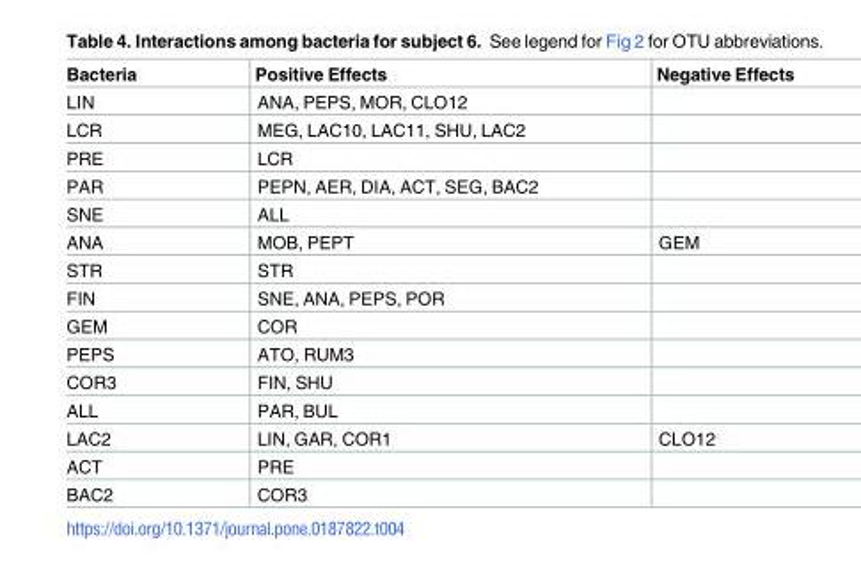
<table><thead><tr><td>Bacteria</td><td>Positive Effects</td><td>Negative Effects</td></tr></thead><tbody><tr><td>LIN</td><td>ANA, PEPS, MOR, CLO12</td><td></td></tr><tr><td>LCR</td><td>MEG, LAC10, LAC11, SHU, LAC2</td><td></td></tr><tr><td>PRE</td><td>LCR</td><td></td></tr><tr><td>PAR</td><td>PEPN, AER, DIA, ACT, SEG, BAC2</td><td></td></tr><tr><td>SNE</td><td>ALL</td><td></td></tr><tr><td>ANA</td><td>MOB, PEPT</td><td>GEM</td></tr><tr><td>STR</td><td>STR</td><td></td></tr><tr><td>FIN</td><td>SNE, ANA, PEPS, POR</td><td></td></tr><tr><td>GEM</td><td>COR</td><td></td></tr><tr><td>PEPS</td><td>ATO, RUM3</td><td></td></tr><tr><td>COR3</td><td>FIN, SHU</td><td></td></tr><tr><td>ALL</td><td>PAR, BUL</td><td></td></tr><tr><td>LAC2</td><td>LIN, GAR, COR1</td><td>CLO12</td></tr><tr><td>ACT</td><td>PRE</td><td></td></tr><tr><td>BAC2</td><td>COR3</td><td></td></tr></tbody></table>